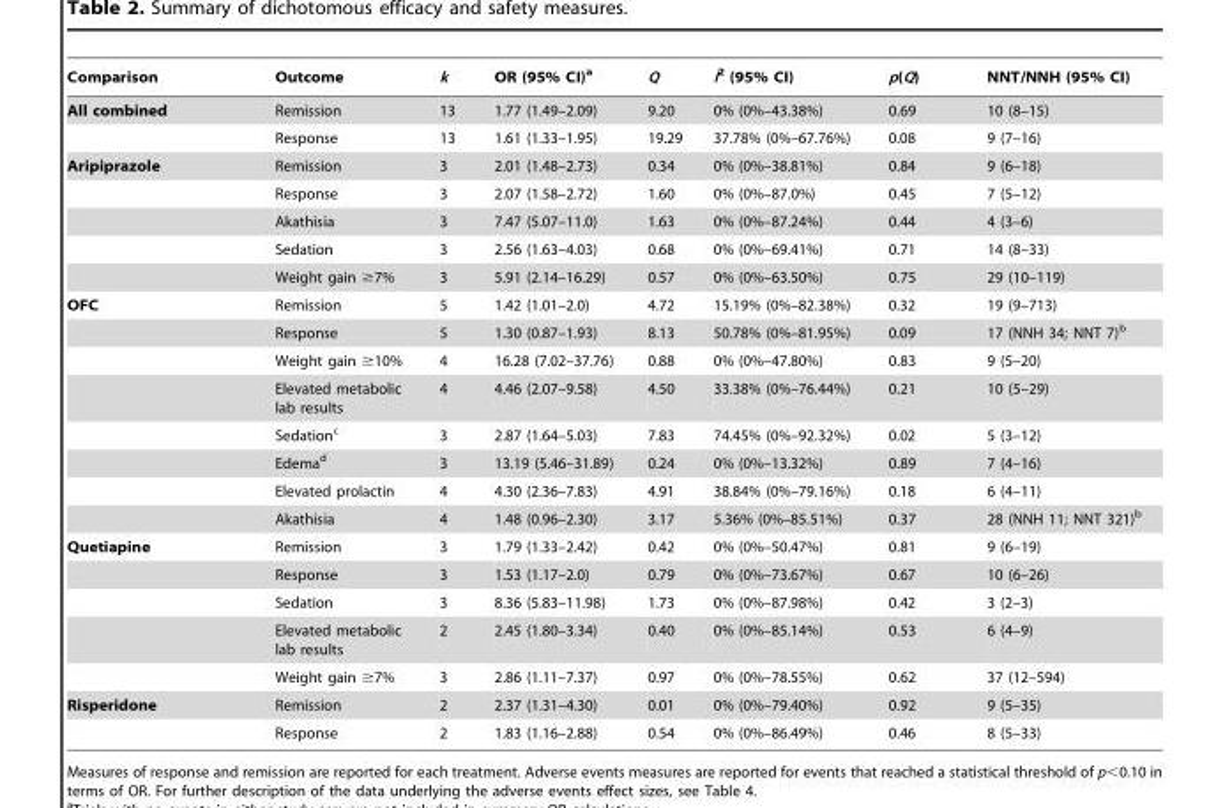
<table><thead><tr><td>Comparison</td><td>Outcome</td><td>k</td><td>OR (95% CI)<sup>a</sup></td><td>Q</td><td>I<sup>2</sup> (95% CI)</td><td>p(Q)</td><td>NNT/NNH (95% CI)</td></tr></thead><tbody><tr><td rowspan="2">All combined</td><td>Remission</td><td>13</td><td>1.77 (1.49–2.09)</td><td>9.20</td><td>0% (0%–43.38%)</td><td>0.69</td><td>10 (8–15)</td></tr><tr><td>Response</td><td>13</td><td>1.61 (1.33–1.95)</td><td>19.29</td><td>37.78% (0%–67.76%)</td><td>0.08</td><td>9 (7–16)</td></tr><tr><td rowspan="5">Aripiprazole</td><td>Remission</td><td>3</td><td>2.01 (1.48–2.73)</td><td>0.34</td><td>0% (0%–38.81%)</td><td>0.84</td><td>9 (6–18)</td></tr><tr><td>Response</td><td>3</td><td>2.07 (1.58–2.72)</td><td>1.60</td><td>0% (0%–87.0%)</td><td>0.45</td><td>7 (5–12)</td></tr><tr><td>Akathisia</td><td>3</td><td>7.47 (5.07–11.0)</td><td>1.63</td><td>0% (0%–87.24%)</td><td>0.44</td><td>4 (3–6)</td></tr><tr><td>Sedation</td><td>3</td><td>2.56 (1.63–4.03)</td><td>0.68</td><td>0% (0%–69.41%)</td><td>0.71</td><td>14 (8–33)</td></tr><tr><td>Weight gain ≥7%</td><td>3</td><td>5.91 (2.14–16.29)</td><td>0.57</td><td>0% (0%–63.50%)</td><td>0.75</td><td>29 (10–119)</td></tr><tr><td rowspan="8">OFC</td><td>Remission</td><td>5</td><td>1.42 (1.01–2.0)</td><td>4.72</td><td>15.19% (0%–82.38%)</td><td>0.32</td><td>19 (9–713)</td></tr><tr><td>Response</td><td>5</td><td>1.30 (0.87–1.93)</td><td>8.13</td><td>50.78% (0%–81.95%)</td><td>0.09</td><td>17 (NNH 34; NNT 7)<sup>b</sup></td></tr><tr><td>Weight gain ≥10%</td><td>4</td><td>16.28 (7.02–37.76)</td><td>0.88</td><td>0% (0%–47.80%)</td><td>0.83</td><td>9 (5–20)</td></tr><tr><td>Elevated metabolic lab results</td><td>4</td><td>4.46 (2.07–9.58)</td><td>4.50</td><td>33.38% (0%–76.44%)</td><td>0.21</td><td>10 (5–29)</td></tr><tr><td>Sedation<sup>c</sup></td><td>3</td><td>2.87 (1.64–5.03)</td><td>7.83</td><td>74.45% (0%–92.32%)</td><td>0.02</td><td>5 (3–12)</td></tr><tr><td>Edema<sup>d</sup></td><td>3</td><td>13.19 (5.46–31.89)</td><td>0.24</td><td>0% (0%–13.32%)</td><td>0.89</td><td>7 (4–16)</td></tr><tr><td>Elevated prolactin</td><td>4</td><td>4.30 (2.36–7.83)</td><td>4.91</td><td>38.84% (0%–79.16%)</td><td>0.18</td><td>6 (4–11)</td></tr><tr><td>Akathisia</td><td>4</td><td>1.48 (0.96–2.30)</td><td>3.17</td><td>5.36% (0%–85.51%)</td><td>0.37</td><td>28 (NNH 11; NNT 321)<sup>b</sup></td></tr><tr><td rowspan="5">Quetiapine</td><td>Remission</td><td>3</td><td>1.79 (1.33–2.42)</td><td>0.42</td><td>0% (0%–50.47%)</td><td>0.81</td><td>9 (6–19)</td></tr><tr><td>Response</td><td>3</td><td>1.53 (1.17–2.0)</td><td>0.79</td><td>0% (0%–73.67%)</td><td>0.67</td><td>10 (6–26)</td></tr><tr><td>Sedation</td><td>3</td><td>8.36 (5.83–11.98)</td><td>1.73</td><td>0% (0%–87.98%)</td><td>0.42</td><td>3 (2–3)</td></tr><tr><td>Elevated metabolic lab results</td><td>2</td><td>2.45 (1.80–3.34)</td><td>0.40</td><td>0% (0%–85.14%)</td><td>0.53</td><td>6 (4–9)</td></tr><tr><td>Weight gain ≥7%</td><td>3</td><td>2.86 (1.11–7.37)</td><td>0.97</td><td>0% (0%–78.55%)</td><td>0.62</td><td>37 (12–594)</td></tr><tr><td rowspan="2">Risperidone</td><td>Remission</td><td>2</td><td>2.37 (1.31–4.30)</td><td>0.01</td><td>0% (0%–79.40%)</td><td>0.92</td><td>9 (5–35)</td></tr><tr><td>Response</td><td>2</td><td>1.83 (1.16–2.88)</td><td>0.54</td><td>0% (0%–86.49%)</td><td>0.46</td><td>8 (5–33)</td></tr></tbody></table>